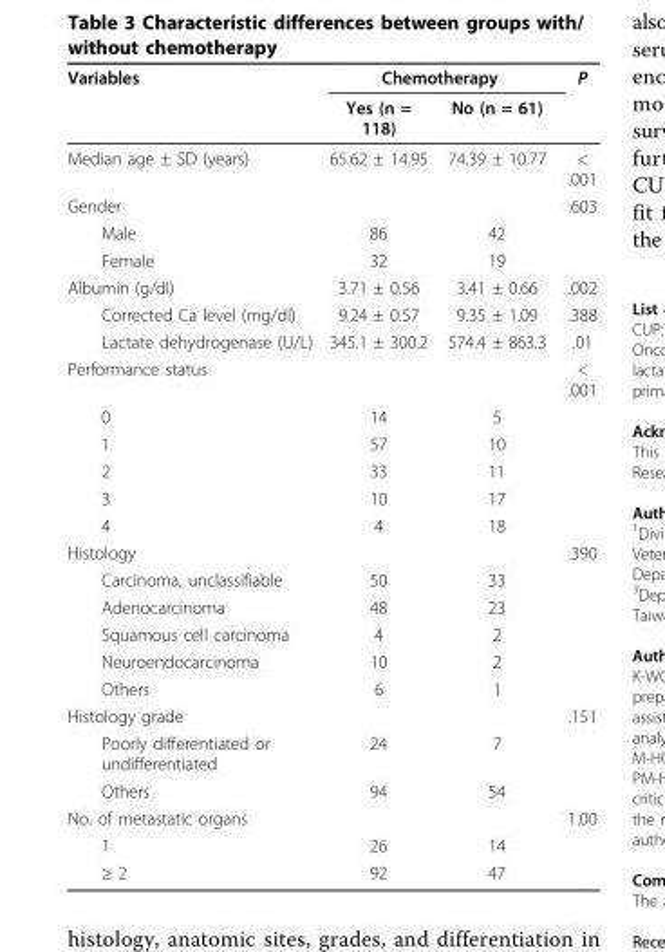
<table><thead><tr><td rowspan="2">Variables</td><td colspan="2">Chemotherapy</td><td rowspan="2">P</td></tr><tr><td>Yes (n = 118)</td><td>No (n = 61)</td></tr></thead><tbody><tr><td>Median age ± SD (years)</td><td>65.62 ± 14.95</td><td>74.39 ± 10.77</td><td>&lt; .001</td></tr><tr><td>Gender</td><td></td><td></td><td>.603</td></tr><tr><td>Male</td><td>86</td><td>42</td><td></td></tr><tr><td>Female</td><td>32</td><td>19</td><td></td></tr><tr><td>Albumin (g/dl)</td><td>3.71 ± 0.56</td><td>3.41 ± 0.66</td><td>.002</td></tr><tr><td>Corrected Ca level (mg/dl)</td><td>9.24 ± 0.57</td><td>9.35 ± 1.09</td><td>.388</td></tr><tr><td>Lactate dehydrogenase (U/L)</td><td>345.1 ± 300.2</td><td>574.4 ± 863.3</td><td>.01</td></tr><tr><td>Performance status</td><td></td><td></td><td>&lt; .001</td></tr><tr><td>0</td><td>14</td><td>5</td><td></td></tr><tr><td>1</td><td>57</td><td>10</td><td></td></tr><tr><td>2</td><td>33</td><td>11</td><td></td></tr><tr><td>3</td><td>10</td><td>17</td><td></td></tr><tr><td>4</td><td>4</td><td>18</td><td></td></tr><tr><td>Histology</td><td></td><td></td><td>.390</td></tr><tr><td>Carcinoma, unclassifiable</td><td>50</td><td>33</td><td></td></tr><tr><td>Adenocarcinoma</td><td>48</td><td>23</td><td></td></tr><tr><td>Squamous cell carcinoma</td><td>4</td><td>2</td><td></td></tr><tr><td>Neuroendocarcinoma</td><td>10</td><td>2</td><td></td></tr><tr><td>Others</td><td>6</td><td>1</td><td></td></tr><tr><td>Histology grade</td><td></td><td></td><td>.151</td></tr><tr><td>Poorly differentiated or undifferentiated</td><td>24</td><td>7</td><td></td></tr><tr><td>Others</td><td>94</td><td>54</td><td></td></tr><tr><td>No. of metastatic organs</td><td></td><td></td><td>1.00</td></tr><tr><td>1</td><td>26</td><td>14</td><td></td></tr><tr><td>≥ 2</td><td>92</td><td>47</td><td></td></tr></tbody></table>